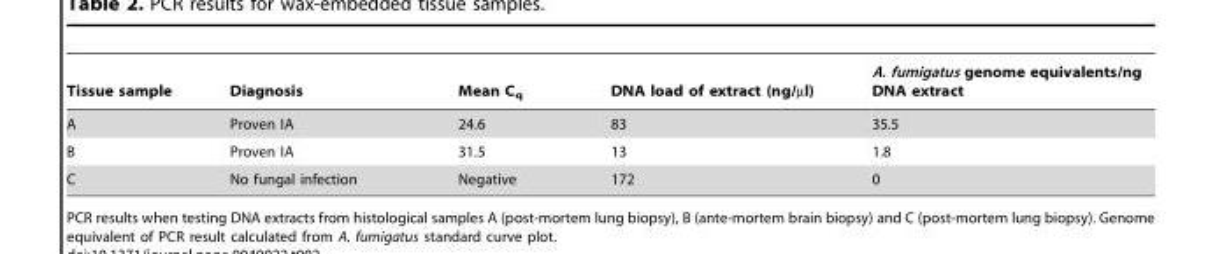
<table><thead><tr><td>Tissue sample</td><td>Diagnosis</td><td>Mean C<sub>q</sub></td><td>DNA load of extract (ng/µl)</td><td>A. fumigatus genome equivalents/ng DNA extract</td></tr></thead><tbody><tr><td>A</td><td>Proven IA</td><td>24.6</td><td>83</td><td>35.5</td></tr><tr><td>B</td><td>Proven IA</td><td>31.5</td><td>13</td><td>1.8</td></tr><tr><td>C</td><td>No fungal infection</td><td>Negative</td><td>172</td><td>0</td></tr></tbody></table>